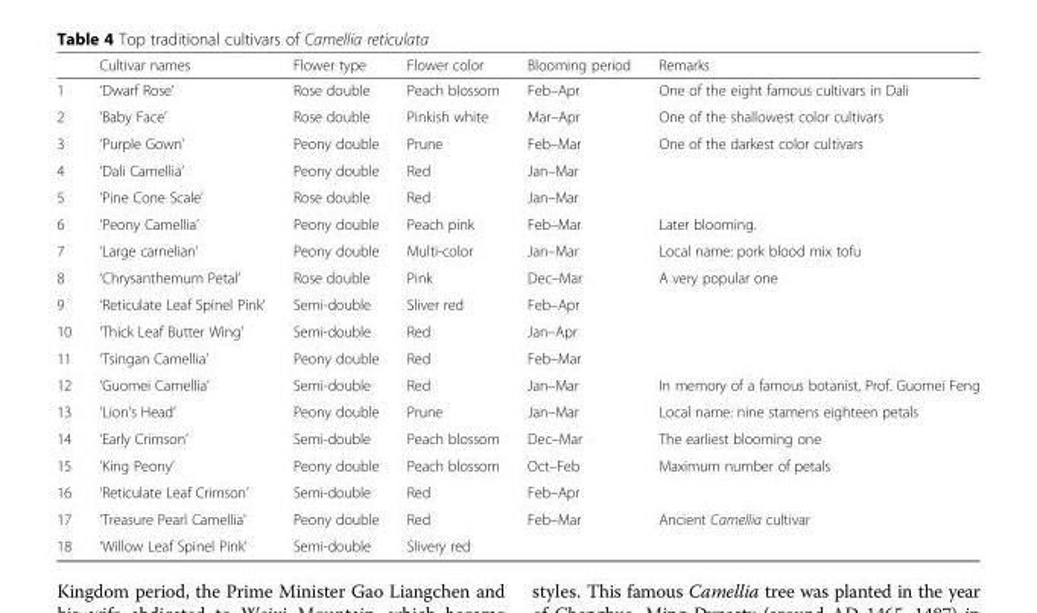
<table><thead><tr><td></td><td>Cultivar names</td><td>Flower type</td><td>Flower color</td><td>Blooming period</td><td>Remarks</td></tr></thead><tbody><tr><td>1</td><td>‘Dwarf Rose’</td><td>Rose double</td><td>Peach blossom</td><td>Feb–Apr</td><td>One of the eight famous cultivars in Dali</td></tr><tr><td>2</td><td>‘Baby Face’</td><td>Rose double</td><td>Pinkish white</td><td>Mar–Apr</td><td>One of the shallowest color cultivars</td></tr><tr><td>3</td><td>‘Purple Gown’</td><td>Peony double</td><td>Prune</td><td>Feb–Mar</td><td>One of the darkest color cultivars</td></tr><tr><td>4</td><td>‘Dali Camellia’</td><td>Peony double</td><td>Red</td><td>Jan–Mar</td><td></td></tr><tr><td>5</td><td>‘Pine Cone Scale’</td><td>Rose double</td><td>Red</td><td>Jan–Mar</td><td></td></tr><tr><td>6</td><td>‘Peony Camellia’</td><td>Peony double</td><td>Peach pink</td><td>Feb–Mar</td><td>Later blooming.</td></tr><tr><td>7</td><td>‘Large carnelian’</td><td>Peony double</td><td>Multi-color</td><td>Jan–Mar</td><td>Local name: pork blood mix tofu</td></tr><tr><td>8</td><td>‘Chrysanthemum Petal’</td><td>Rose double</td><td>Pink</td><td>Dec–Mar</td><td>A very popular one</td></tr><tr><td>9</td><td>‘Reticulate Leaf Spinel Pink’</td><td>Semi-double</td><td>Sliver red</td><td>Feb–Apr</td><td></td></tr><tr><td>10</td><td>‘Thick Leaf Butter Wing’</td><td>Semi-double</td><td>Red</td><td>Jan–Apr</td><td></td></tr><tr><td>11</td><td>‘Tsingan Camellia’</td><td>Peony double</td><td>Red</td><td>Feb–Mar</td><td></td></tr><tr><td>12</td><td>‘Guomei Camellia’</td><td>Semi-double</td><td>Red</td><td>Jan–Mar</td><td>In memory of a famous botanist, Prof. Guomei Feng</td></tr><tr><td>13</td><td>‘Lion’s Head’</td><td>Peony double</td><td>Prune</td><td>Jan–Mar</td><td>Local name: nine stamens eighteen petals</td></tr><tr><td>14</td><td>‘Early Crimson’</td><td>Semi-double</td><td>Peach blossom</td><td>Dec–Mar</td><td>The earliest blooming one</td></tr><tr><td>15</td><td>‘King Peony’</td><td>Peony double</td><td>Peach blossom</td><td>Oct–Feb</td><td>Maximum number of petals</td></tr><tr><td>16</td><td>‘Reticulate Leaf Crimson’</td><td>Semi-double</td><td>Red</td><td>Feb–Apr</td><td></td></tr><tr><td>17</td><td>‘Treasure Pearl Camellia’</td><td>Peony double</td><td>Red</td><td>Feb–Mar</td><td>Ancient Camellia cultivar</td></tr><tr><td>18</td><td>‘Willow Leaf Spinel Pink’</td><td>Semi-double</td><td>Slivery red</td><td></td><td></td></tr></tbody></table>